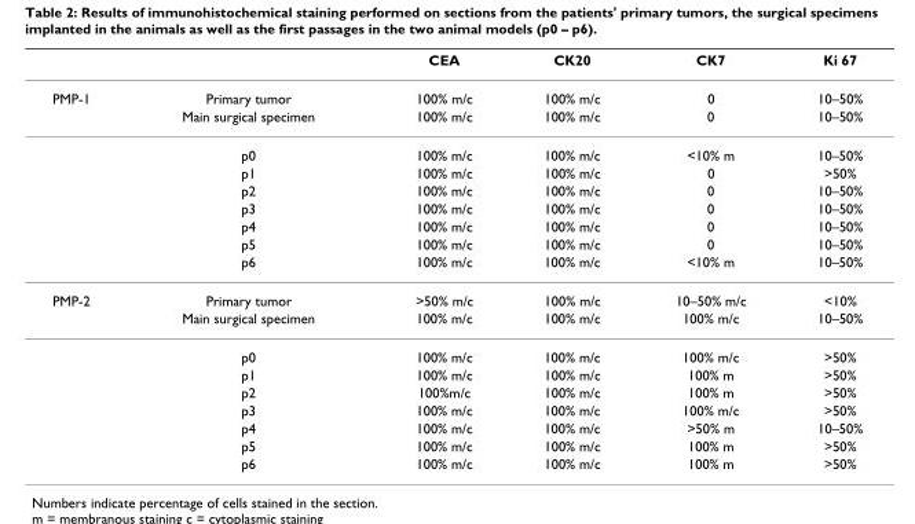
<table><thead><tr><td></td><td></td><td>CEA</td><td>CK20</td><td>CK7</td><td>Ki 67</td></tr></thead><tbody><tr><td rowspan="9">PMP-1</td><td>Primary tumor</td><td>100% m/c</td><td>100% m/c</td><td>0</td><td>10–50%</td></tr><tr><td>Main surgical specimen</td><td>100% m/c</td><td>100% m/c</td><td>0</td><td>10–50%</td></tr><tr><td>p0</td><td>100% m/c</td><td>100% m/c</td><td>&lt;10% m</td><td>10–50%</td></tr><tr><td>p1</td><td>100% m/c</td><td>100% m/c</td><td>0</td><td>&gt;50%</td></tr><tr><td>p2</td><td>100% m/c</td><td>100% m/c</td><td>0</td><td>10–50%</td></tr><tr><td>p3</td><td>100% m/c</td><td>100% m/c</td><td>0</td><td>10–50%</td></tr><tr><td>p4</td><td>100% m/c</td><td>100% m/c</td><td>0</td><td>10–50%</td></tr><tr><td>p5</td><td>100% m/c</td><td>100% m/c</td><td>0</td><td>10–50%</td></tr><tr><td>p6</td><td>100% m/c</td><td>100% m/c</td><td>&lt;10% m</td><td>10–50%</td></tr><tr><td rowspan="9">PMP-2</td><td>Primary tumor</td><td>&gt;50% m/c</td><td>100% m/c</td><td>10–50% m/c</td><td>&lt;10%</td></tr><tr><td>Main surgical specimen</td><td>100% m/c</td><td>100% m/c</td><td>100% m/c</td><td>10–50%</td></tr><tr><td>p0</td><td>100% m/c</td><td>100% m/c</td><td>100% m/c</td><td>&gt;50%</td></tr><tr><td>p1</td><td>100% m/c</td><td>100% m/c</td><td>100% m</td><td>&gt;50%</td></tr><tr><td>p2</td><td>100%m/c</td><td>100% m/c</td><td>100% m</td><td>&gt;50%</td></tr><tr><td>p3</td><td>100% m/c</td><td>100% m/c</td><td>100% m/c</td><td>&gt;50%</td></tr><tr><td>p4</td><td>100% m/c</td><td>100% m/c</td><td>&gt;50% m</td><td>10–50%</td></tr><tr><td>p5</td><td>100% m/c</td><td>100% m/c</td><td>100% m</td><td>&gt;50%</td></tr><tr><td>p6</td><td>100% m/c</td><td>100% m/c</td><td>100% m</td><td>&gt;50%</td></tr></tbody></table>